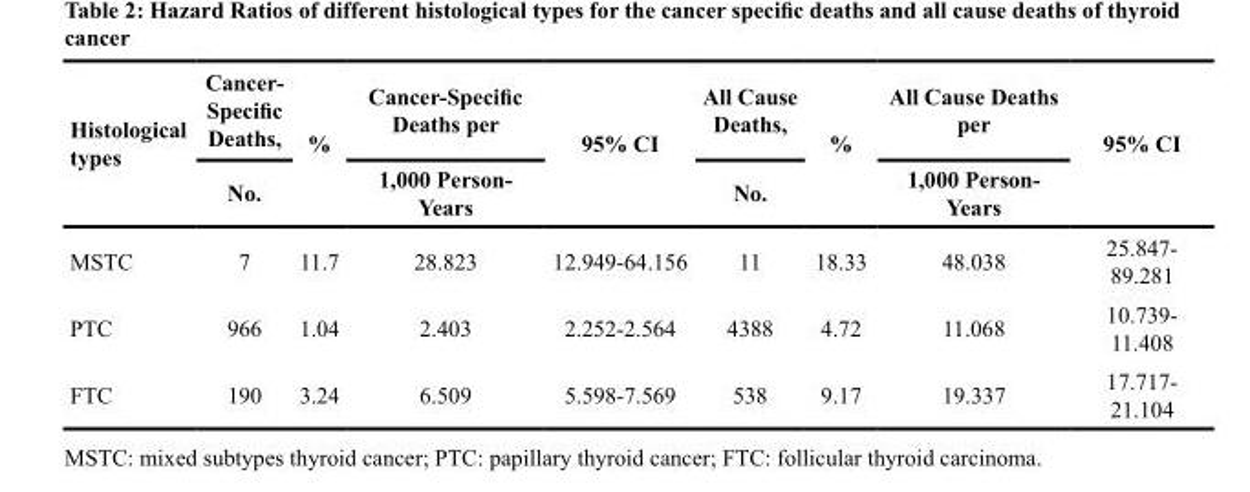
<table><thead><tr><td rowspan="2">Histological types</td><td rowspan="2">Cancer- Specific Deaths, No.</td><td rowspan="2">%</td><td rowspan="2">Cancer-Specific Deaths per 1,000 Person- Years</td><td rowspan="2">95% CI</td><td rowspan="2">All Cause Deaths, No.</td><td rowspan="2">%</td><td rowspan="2">All Cause Deaths per 1,000 Person- Years</td><td rowspan="2">95% CI</td></tr><tr></tr></thead><tbody><tr><td>MSTC</td><td>7</td><td>11.7</td><td>28.823</td><td>12.949-64.156</td><td>11</td><td>18.33</td><td>48.038</td><td>25.847- 89.281</td></tr><tr><td>PTC</td><td>966</td><td>1.04</td><td>2.403</td><td>2.252-2.564</td><td>4388</td><td>4.72</td><td>11.068</td><td>10.739- 11.408</td></tr><tr><td>FTC</td><td>190</td><td>3.24</td><td>6.509</td><td>5.598-7.569</td><td>538</td><td>9.17</td><td>19.337</td><td>17.717- 21.104</td></tr></tbody></table>